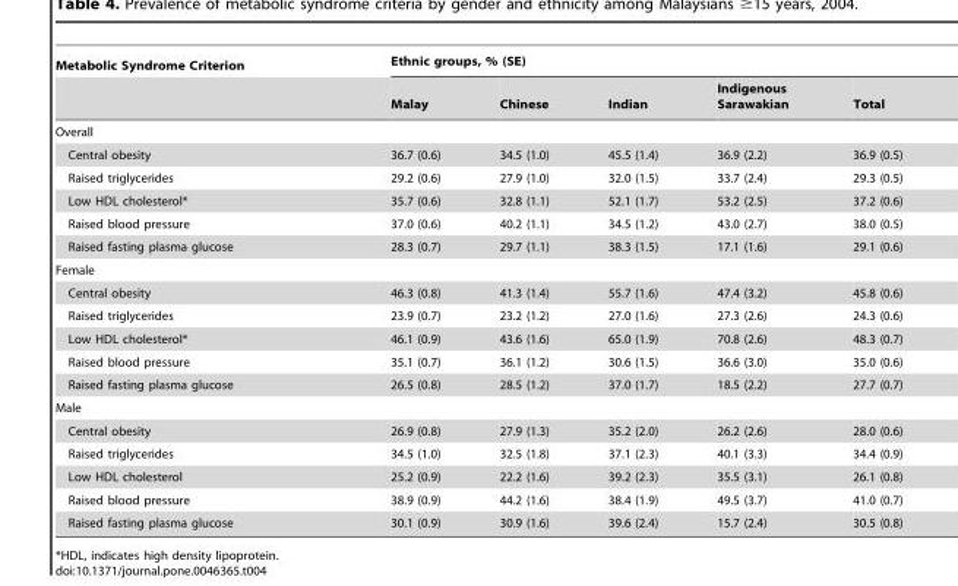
<table><thead><tr><td rowspan="2">Metabolic Syndrome Criterion</td><td colspan="5">Ethnic groups, % (SE)</td></tr><tr><td>Malay</td><td>Chinese</td><td>Indian</td><td>Indigenous Sarawakian</td><td>Total</td></tr></thead><tbody><tr><td colspan="6">Overall</td></tr><tr><td>Central obesity</td><td>36.7 (0.6)</td><td>34.5 (1.0)</td><td>45.5 (1.4)</td><td>36.9 (2.2)</td><td>36.9 (0.5)</td></tr><tr><td>Raised triglycerides</td><td>29.2 (0.6)</td><td>27.9 (1.0)</td><td>32.0 (1.5)</td><td>33.7 (2.4)</td><td>29.3 (0.5)</td></tr><tr><td>Low HDL cholesterol*</td><td>35.7 (0.6)</td><td>32.8 (1.1)</td><td>52.1 (1.7)</td><td>53.2 (2.5)</td><td>37.2 (0.6)</td></tr><tr><td>Raised blood pressure</td><td>37.0 (0.6)</td><td>40.2 (1.1)</td><td>34.5 (1.2)</td><td>43.0 (2.7)</td><td>38.0 (0.5)</td></tr><tr><td>Raised fasting plasma glucose</td><td>28.3 (0.7)</td><td>29.7 (1.1)</td><td>38.3 (1.5)</td><td>17.1 (1.6)</td><td>29.1 (0.6)</td></tr><tr><td colspan="6">Female</td></tr><tr><td>Central obesity</td><td>46.3 (0.8)</td><td>41.3 (1.4)</td><td>55.7 (1.6)</td><td>47.4 (3.2)</td><td>45.8 (0.6)</td></tr><tr><td>Raised triglycerides</td><td>23.9 (0.7)</td><td>23.2 (1.2)</td><td>27.0 (1.6)</td><td>27.3 (2.6)</td><td>24.3 (0.6)</td></tr><tr><td>Low HDL cholesterol*</td><td>46.1 (0.9)</td><td>43.6 (1.6)</td><td>65.0 (1.9)</td><td>70.8 (2.6)</td><td>48.3 (0.7)</td></tr><tr><td>Raised blood pressure</td><td>35.1 (0.7)</td><td>36.1 (1.2)</td><td>30.6 (1.5)</td><td>36.6 (3.0)</td><td>35.0 (0.6)</td></tr><tr><td>Raised fasting plasma glucose</td><td>26.5 (0.8)</td><td>28.5 (1.2)</td><td>37.0 (1.7)</td><td>18.5 (2.2)</td><td>27.7 (0.7)</td></tr><tr><td colspan="6">Male</td></tr><tr><td>Central obesity</td><td>26.9 (0.8)</td><td>27.9 (1.3)</td><td>35.2 (2.0)</td><td>26.2 (2.6)</td><td>28.0 (0.6)</td></tr><tr><td>Raised triglycerides</td><td>34.5 (1.0)</td><td>32.5 (1.8)</td><td>37.1 (2.3)</td><td>40.1 (3.3)</td><td>34.4 (0.9)</td></tr><tr><td>Low HDL cholesterol</td><td>25.2 (0.9)</td><td>22.2 (1.6)</td><td>39.2 (2.3)</td><td>35.5 (3.1)</td><td>26.1 (0.8)</td></tr><tr><td>Raised blood pressure</td><td>38.9 (0.9)</td><td>44.2 (1.6)</td><td>38.4 (1.9)</td><td>49.5 (3.7)</td><td>41.0 (0.7)</td></tr><tr><td>Raised fasting plasma glucose</td><td>30.1 (0.9)</td><td>30.9 (1.6)</td><td>39.6 (2.4)</td><td>15.7 (2.4)</td><td>30.5 (0.8)</td></tr></tbody></table>